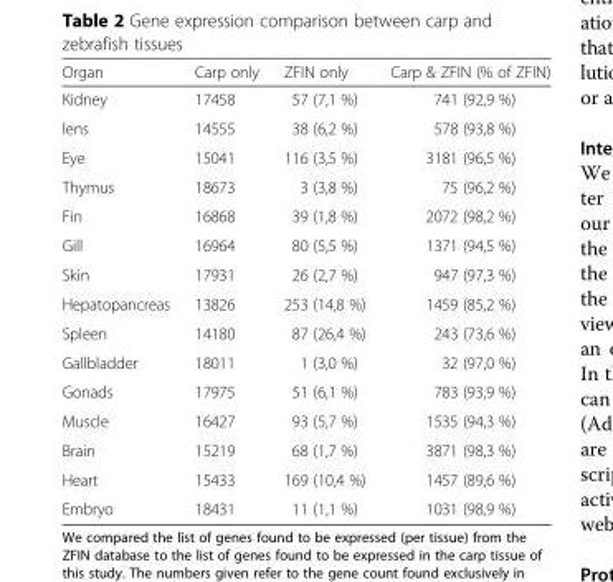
<table><thead><tr><td>Organ</td><td>Carp only</td><td>ZFIN only</td><td>Carp &amp; ZFIN (% of ZFIN)</td></tr></thead><tbody><tr><td>Kidney</td><td>17458</td><td>57 (7,1 %)</td><td>741 (92,9 %)</td></tr><tr><td>lens</td><td>14555</td><td>38 (6,2 %)</td><td>578 (93,8 %)</td></tr><tr><td>Eye</td><td>15041</td><td>116 (3,5 %)</td><td>3181 (96,5 %)</td></tr><tr><td>Thymus</td><td>18673</td><td>3 (3,8 %)</td><td>75 (96,2 %)</td></tr><tr><td>Fin</td><td>16868</td><td>39 (1,8 %)</td><td>2072 (98,2 %)</td></tr><tr><td>Gill</td><td>16964</td><td>80 (5,5 %)</td><td>1371 (94,5 %)</td></tr><tr><td>Skin</td><td>17931</td><td>26 (2,7 %)</td><td>947 (97,3 %)</td></tr><tr><td>Hepatopancreas</td><td>13826</td><td>253 (14,8 %)</td><td>1459 (85,2 %)</td></tr><tr><td>Spleen</td><td>14180</td><td>87 (26,4 %)</td><td>243 (73,6 %)</td></tr><tr><td>Gallbladder</td><td>18011</td><td>1 (3,0 %)</td><td>32 (97,0 %)</td></tr><tr><td>Gonads</td><td>17975</td><td>51 (6,1 %)</td><td>783 (93,9 %)</td></tr><tr><td>Muscle</td><td>16427</td><td>93 (5,7 %)</td><td>1535 (94,3 %)</td></tr><tr><td>Brain</td><td>15219</td><td>68 (1,7 %)</td><td>3871 (98,3 %)</td></tr><tr><td>Heart</td><td>15433</td><td>169 (10,4 %)</td><td>1457 (89,6 %)</td></tr><tr><td>Embryo</td><td>18431</td><td>11 (1,1 %)</td><td>1031 (98,9 %)</td></tr></tbody></table>